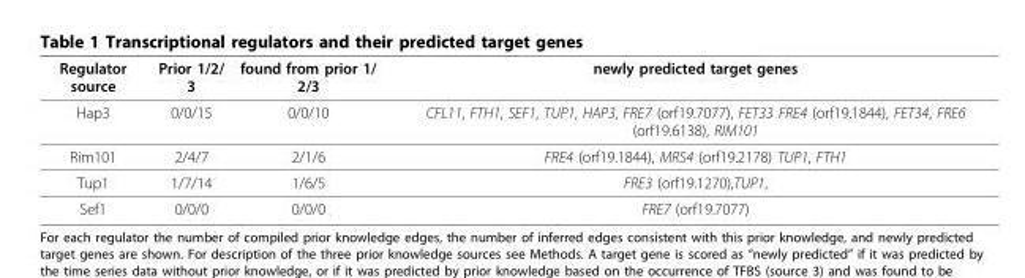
<table><thead><tr><td>Regulator source</td><td>Prior 1/2/ 3</td><td>found from prior 1/ 2/3</td><td>newly predicted target genes</td></tr></thead><tbody><tr><td>Hap3</td><td>0/0/15</td><td>0/0/10</td><td>CFL11, FTH1, SEF1, TUP1, HAP3, FRE7 (orf19.7077), FET33 FRE4 (orf19.1844), FET34, FRE6 (orf19.6138), RIM101</td></tr><tr><td>Rim101</td><td>2/4/7</td><td>2/1/6</td><td>FRE4 (orf19.1844), MRS4 (orf19.2178) TUP1, FTH1</td></tr><tr><td>Tup1</td><td>1/7/14</td><td>1/6/5</td><td>FRE3 (orf19.1270),TUP1,</td></tr><tr><td>Sef1</td><td>0/0/0</td><td>0/0/0</td><td>FRE7 (orf19.7077)</td></tr></tbody></table>